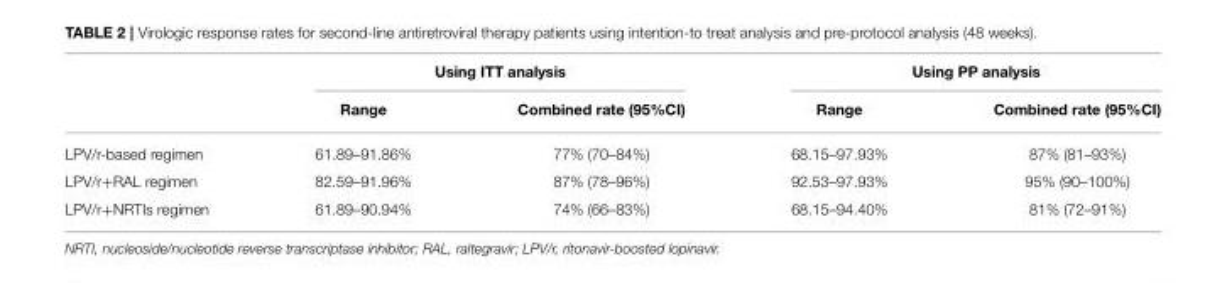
<table><thead><tr><td rowspan="2"></td><td colspan="2">Using ITT analysis</td><td colspan="2">Using PP analysis</td></tr><tr><td>Range</td><td>Combined rate (95%CI)</td><td>Range</td><td>Combined rate (95%CI)</td></tr></thead><tbody><tr><td>LPV/r-based regimen</td><td>61.89–91.86%</td><td>77% (70–84%)</td><td>68.15–97.93%</td><td>87% (81–93%)</td></tr><tr><td>LPV/r+RAL regimen</td><td>82.59–91.96%</td><td>87% (78–96%)</td><td>92.53–97.93%</td><td>95% (90–100%)</td></tr><tr><td>LPV/r+NRTIs regimen</td><td>61.89–90.94%</td><td>74% (66–83%)</td><td>68.15–94.40%</td><td>81% (72–91%)</td></tr></tbody></table>